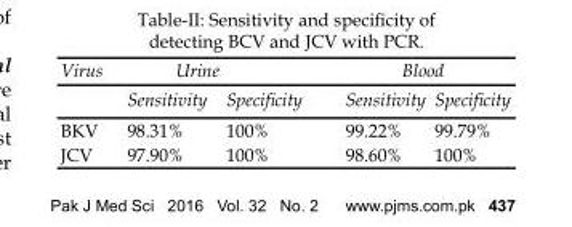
<table><thead><tr><td rowspan="2">Virus</td><td colspan="2">Urine</td><td colspan="2">Blood</td></tr><tr><td>Sensitivity</td><td>Specificity</td><td>Sensitivity</td><td>Specificity</td></tr></thead><tbody><tr><td>BKV</td><td>98.31%</td><td>100%</td><td>99.22%</td><td>99.79%</td></tr><tr><td>JCV</td><td>97.90%</td><td>100%</td><td>98.60%</td><td>100%</td></tr></tbody></table>